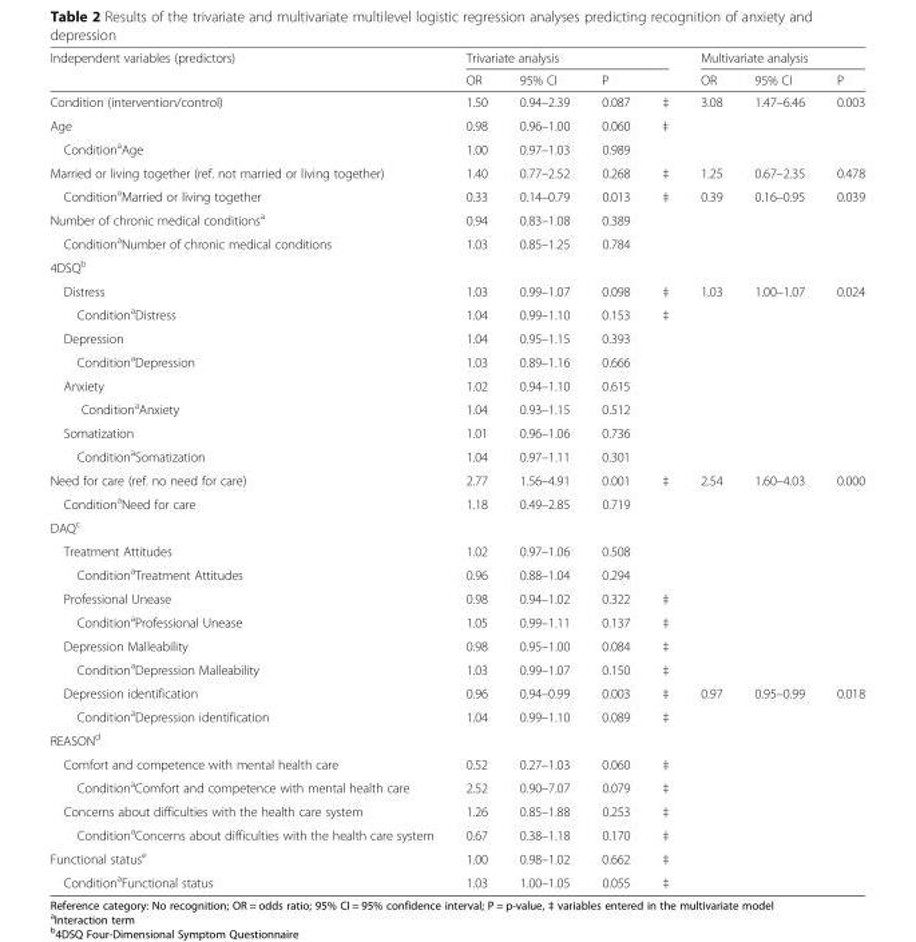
<table><thead><tr><td rowspan="2">Independent variables (predictors)</td><td colspan="4">Trivariate analysis</td><td colspan="3">Multivariate analysis</td></tr><tr><td>OR</td><td>95% CI</td><td>P</td><td></td><td>OR</td><td>95% CI</td><td>P</td></tr></thead><tbody><tr><td>Condition (intervention/control)</td><td>1.50</td><td>0.94–2.39</td><td>0.087</td><td>‡</td><td>3.08</td><td>1.47–6.46</td><td>0.003</td></tr><tr><td>Age</td><td>0.98</td><td>0.96–1.00</td><td>0.060</td><td>‡</td><td></td><td></td><td></td></tr><tr><td>Condition<sup>a</sup>Age</td><td>1.00</td><td>0.97–1.03</td><td>0.989</td><td></td><td></td><td></td><td></td></tr><tr><td>Married or living together (ref. not married or living together)</td><td>1.40</td><td>0.77–2.52</td><td>0.268</td><td>‡</td><td>1.25</td><td>0.67–2.35</td><td>0.478</td></tr><tr><td>Condition<sup>a</sup>Married or living together</td><td>0.33</td><td>0.14–0.79</td><td>0.013</td><td>‡</td><td>0.39</td><td>0.16–0.95</td><td>0.039</td></tr><tr><td>Number of chronic medical conditions<sup>a</sup></td><td>0.94</td><td>0.83–1.08</td><td>0.389</td><td></td><td></td><td></td><td></td></tr><tr><td>Condition<sup>a</sup>Number of chronic medical conditions</td><td>1.03</td><td>0.85–1.25</td><td>0.784</td><td></td><td></td><td></td><td></td></tr><tr><td colspan="8">4DSQ<sup>b</sup></td></tr><tr><td>Distress</td><td>1.03</td><td>0.99–1.07</td><td>0.098</td><td>‡</td><td>1.03</td><td>1.00–1.07</td><td>0.024</td></tr><tr><td>Condition<sup>a</sup>Distress</td><td>1.04</td><td>0.99–1.10</td><td>0.153</td><td>‡</td><td></td><td></td><td></td></tr><tr><td>Depression</td><td>1.04</td><td>0.95–1.15</td><td>0.393</td><td></td><td></td><td></td><td></td></tr><tr><td>Condition<sup>a</sup>Depression</td><td>1.03</td><td>0.89–1.16</td><td>0.666</td><td></td><td></td><td></td><td></td></tr><tr><td>Anxiety</td><td>1.02</td><td>0.94–1.10</td><td>0.615</td><td></td><td></td><td></td><td></td></tr><tr><td>Condition<sup>a</sup>Anxiety</td><td>1.04</td><td>0.93–1.15</td><td>0.512</td><td></td><td></td><td></td><td></td></tr><tr><td>Somatization</td><td>1.01</td><td>0.96–1.06</td><td>0.736</td><td></td><td></td><td></td><td></td></tr><tr><td>Condition<sup>a</sup>Somatization</td><td>1.04</td><td>0.97–1.11</td><td>0.301</td><td></td><td></td><td></td><td></td></tr><tr><td>Need for care (ref. no need for care)</td><td>2.77</td><td>1.56–4.91</td><td>0.001</td><td>‡</td><td>2.54</td><td>1.60–4.03</td><td>0.000</td></tr><tr><td>Condition<sup>a</sup>Need for care</td><td>1.18</td><td>0.49–2.85</td><td>0.719</td><td></td><td></td><td></td><td></td></tr><tr><td colspan="8">DAQ<sup>c</sup></td></tr><tr><td>Treatment Attitudes</td><td>1.02</td><td>0.97–1.06</td><td>0.508</td><td></td><td></td><td></td><td></td></tr><tr><td>Condition<sup>a</sup>Treatment Attitudes</td><td>0.96</td><td>0.88–1.04</td><td>0.294</td><td></td><td></td><td></td><td></td></tr><tr><td>Professional Unease</td><td>0.98</td><td>0.94–1.02</td><td>0.322</td><td>‡</td><td></td><td></td><td></td></tr><tr><td>Condition<sup>a</sup>Professional Unease</td><td>1.05</td><td>0.99–1.11</td><td>0.137</td><td>‡</td><td></td><td></td><td></td></tr><tr><td>Depression Malleability</td><td>0.98</td><td>0.95–1.00</td><td>0.084</td><td>‡</td><td></td><td></td><td></td></tr><tr><td>Condition<sup>a</sup>Depression Malleability</td><td>1.03</td><td>0.99–1.07</td><td>0.150</td><td>‡</td><td></td><td></td><td></td></tr><tr><td>Depression identification</td><td>0.96</td><td>0.94–0.99</td><td>0.003</td><td>‡</td><td>0.97</td><td>0.95–0.99</td><td>0.018</td></tr><tr><td>Condition<sup>a</sup>Depression identification</td><td>1.04</td><td>0.99–1.10</td><td>0.089</td><td>‡</td><td></td><td></td><td></td></tr><tr><td colspan="8">REASON<sup>d</sup></td></tr><tr><td>Comfort and competence with mental health care</td><td>0.52</td><td>0.27–1.03</td><td>0.060</td><td>‡</td><td></td><td></td><td></td></tr><tr><td>Condition<sup>a</sup>Comfort and competence with mental health care</td><td>2.52</td><td>0.90–7.07</td><td>0.079</td><td>‡</td><td></td><td></td><td></td></tr><tr><td>Concerns about difficulties with the health care system</td><td>1.26</td><td>0.85–1.88</td><td>0.253</td><td>‡</td><td></td><td></td><td></td></tr><tr><td>Condition<sup>a</sup>Concerns about difficulties with the health care system</td><td>0.67</td><td>0.38–1.18</td><td>0.170</td><td>‡</td><td></td><td></td><td></td></tr><tr><td>Functional status<sup>e</sup></td><td>1.00</td><td>0.98–1.02</td><td>0.662</td><td>‡</td><td></td><td></td><td></td></tr><tr><td>Condition<sup>a</sup>Functional status</td><td>1.03</td><td>1.00–1.05</td><td>0.055</td><td>‡</td><td></td><td></td><td></td></tr></tbody></table>